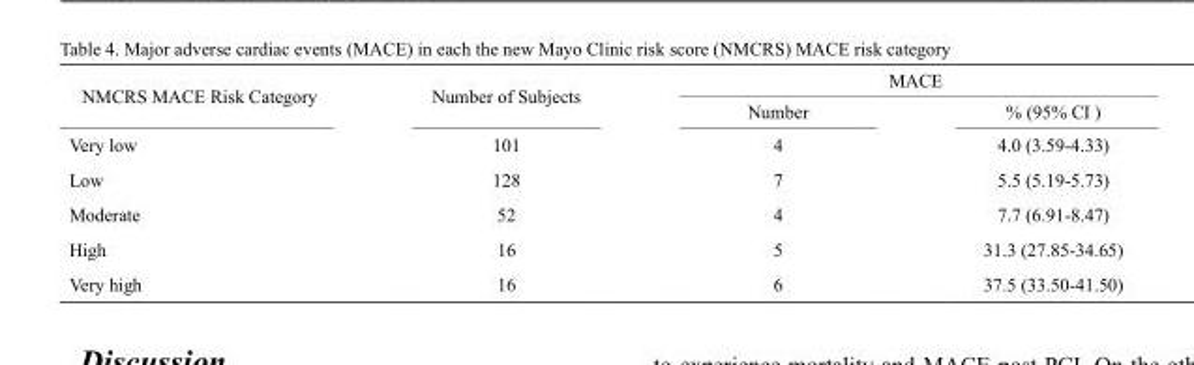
<table><thead><tr><td rowspan="2">NMCRS MACE Risk Category</td><td rowspan="2">Number of Subjects</td><td colspan="2">MACE</td></tr><tr><td>Number</td><td>% (95% CI )</td></tr></thead><tbody><tr><td>Very low</td><td>101</td><td>4</td><td>4.0 (3.59-4.33)</td></tr><tr><td>Low</td><td>128</td><td>7</td><td>5.5 (5.19-5.73)</td></tr><tr><td>Moderate</td><td>52</td><td>4</td><td>7.7 (6.91-8.47)</td></tr><tr><td>High</td><td>16</td><td>5</td><td>31.3 (27.85-34.65)</td></tr><tr><td>Very high</td><td>16</td><td>6</td><td>37.5 (33.50-41.50)</td></tr></tbody></table>